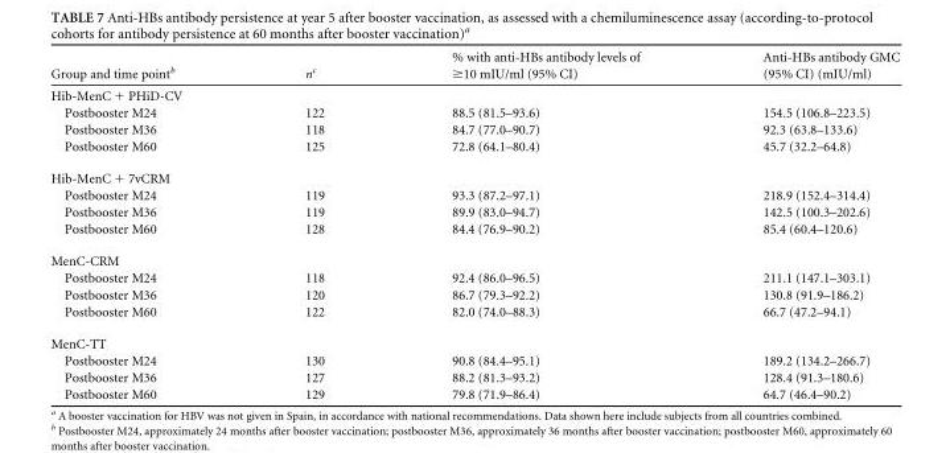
<table><thead><tr><td>Group and time point<sup>b</sup></td><td>n<sup>c</sup></td><td>% with anti-HBs antibody levels of ≥10 mIU/ml (95% CI)</td><td>Anti-HBs antibody GMC (95% CI) (mIU/ml)</td></tr></thead><tbody><tr><td colspan="4">Hib-MenC + PHiD-CV</td></tr><tr><td>Postbooster M24</td><td>122</td><td>88.5 (81.5–93.6)</td><td>154.5 (106.8–223.5)</td></tr><tr><td>Postbooster M36</td><td>118</td><td>84.7 (77.0–90.7)</td><td>92.3 (63.8–133.6)</td></tr><tr><td>Postbooster M60</td><td>125</td><td>72.8 (64.1–80.4)</td><td>45.7 (32.2–64.8)</td></tr><tr><td colspan="4">Hib-MenC + 7vCRM</td></tr><tr><td>Postbooster M24</td><td>119</td><td>93.3 (87.2–97.1)</td><td>218.9 (152.4–314.4)</td></tr><tr><td>Postbooster M36</td><td>119</td><td>89.9 (83.0–94.7)</td><td>142.5 (100.3–202.6)</td></tr><tr><td>Postbooster M60</td><td>128</td><td>84.4 (76.9–90.2)</td><td>85.4 (60.4–120.6)</td></tr><tr><td colspan="4">MenC-CRM</td></tr><tr><td>Postbooster M24</td><td>118</td><td>92.4 (86.0–96.5)</td><td>211.1 (147.1–303.1)</td></tr><tr><td>Postbooster M36</td><td>120</td><td>86.7 (79.3–92.2)</td><td>130.8 (91.9–186.2)</td></tr><tr><td>Postbooster M60</td><td>122</td><td>82.0 (74.0–88.3)</td><td>66.7 (47.2–94.1)</td></tr><tr><td colspan="4">MenC-TT</td></tr><tr><td>Postbooster M24</td><td>130</td><td>90.8 (84.4–95.1)</td><td>189.2 (134.2–266.7)</td></tr><tr><td>Postbooster M36</td><td>127</td><td>88.2 (81.3–93.2)</td><td>128.4 (91.3–180.6)</td></tr><tr><td>Postbooster M60</td><td>129</td><td>79.8 (71.9–86.4)</td><td>64.7 (46.4–90.2)</td></tr></tbody></table>